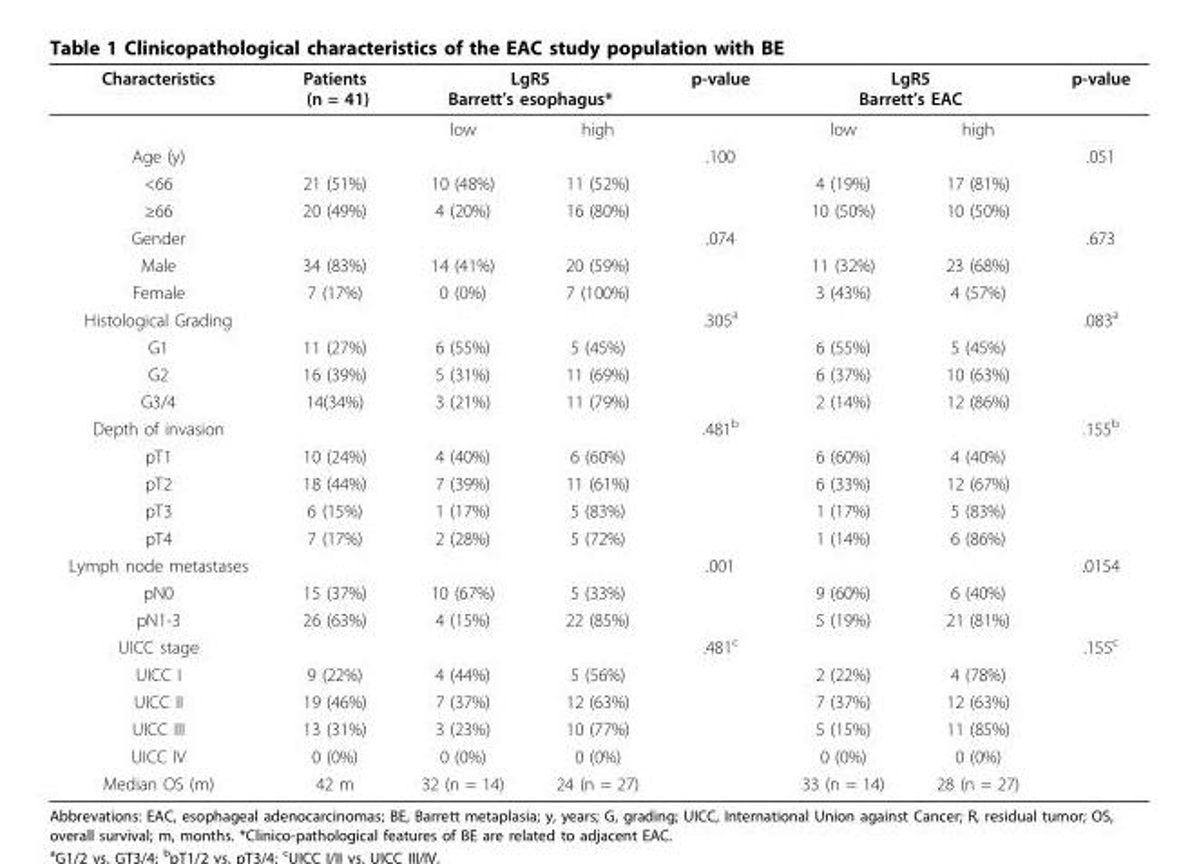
<table><thead><tr><td rowspan="2">Characteristics</td><td rowspan="2">Patients (n = 41)</td><td colspan="2">LgR5 Barrett’s esophagus*</td><td rowspan="2">p-value</td><td colspan="2">LgR5 Barrett’s EAC</td><td rowspan="2">p-value</td></tr><tr><td>low</td><td>high</td><td>low</td><td>high</td></tr></thead><tbody><tr><td>Age (y)</td><td></td><td></td><td></td><td>.100</td><td></td><td></td><td>.051</td></tr><tr><td>&lt;66</td><td>21 (51%)</td><td>10 (48%)</td><td>11 (52%)</td><td></td><td>4 (19%)</td><td>17 (81%)</td><td></td></tr><tr><td>≥66</td><td>20 (49%)</td><td>4 (20%)</td><td>16 (80%)</td><td></td><td>10 (50%)</td><td>10 (50%)</td><td></td></tr><tr><td>Gender</td><td></td><td></td><td></td><td>.074</td><td></td><td></td><td>.673</td></tr><tr><td>Male</td><td>34 (83%)</td><td>14 (41%)</td><td>20 (59%)</td><td></td><td>11 (32%)</td><td>23 (68%)</td><td></td></tr><tr><td>Female</td><td>7 (17%)</td><td>0 (0%)</td><td>7 (100%)</td><td></td><td>3 (43%)</td><td>4 (57%)</td><td></td></tr><tr><td>Histological Grading</td><td></td><td></td><td></td><td>.305<sup>a</sup></td><td></td><td></td><td>.083<sup>a</sup></td></tr><tr><td>G1</td><td>11 (27%)</td><td>6 (55%)</td><td>5 (45%)</td><td></td><td>6 (55%)</td><td>5 (45%)</td><td></td></tr><tr><td>G2</td><td>16 (39%)</td><td>5 (31%)</td><td>11 (69%)</td><td></td><td>6 (37%)</td><td>10 (63%)</td><td></td></tr><tr><td>G3/4</td><td>14(34%)</td><td>3 (21%)</td><td>11 (79%)</td><td></td><td>2 (14%)</td><td>12 (86%)</td><td></td></tr><tr><td>Depth of invasion</td><td></td><td></td><td></td><td>.481<sup>b</sup></td><td></td><td></td><td>.155<sup>b</sup></td></tr><tr><td>pT1</td><td>10 (24%)</td><td>4 (40%)</td><td>6 (60%)</td><td></td><td>6 (60%)</td><td>4 (40%)</td><td></td></tr><tr><td>pT2</td><td>18 (44%)</td><td>7 (39%)</td><td>11 (61%)</td><td></td><td>6 (33%)</td><td>12 (67%)</td><td></td></tr><tr><td>pT3</td><td>6 (15%)</td><td>1 (17%)</td><td>5 (83%)</td><td></td><td>1 (17%)</td><td>5 (83%)</td><td></td></tr><tr><td>pT4</td><td>7 (17%)</td><td>2 (28%)</td><td>5 (72%)</td><td></td><td>1 (14%)</td><td>6 (86%)</td><td></td></tr><tr><td>Lymph node metastases</td><td></td><td></td><td></td><td>.001</td><td></td><td></td><td>.0154</td></tr><tr><td>pN0</td><td>15 (37%)</td><td>10 (67%)</td><td>5 (33%)</td><td></td><td>9 (60%)</td><td>6 (40%)</td><td></td></tr><tr><td>pN1-3</td><td>26 (63%)</td><td>4 (15%)</td><td>22 (85%)</td><td></td><td>5 (19%)</td><td>21 (81%)</td><td></td></tr><tr><td>UICC stage</td><td></td><td></td><td></td><td>.481<sup>c</sup></td><td></td><td></td><td>.155<sup>c</sup></td></tr><tr><td>UICC I</td><td>9 (22%)</td><td>4 (44%)</td><td>5 (56%)</td><td></td><td>2 (22%)</td><td>4 (78%)</td><td></td></tr><tr><td>UICC II</td><td>19 (46%)</td><td>7 (37%)</td><td>12 (63%)</td><td></td><td>7 (37%)</td><td>12 (63%)</td><td></td></tr><tr><td>UICC III</td><td>13 (31%)</td><td>3 (23%)</td><td>10 (77%)</td><td></td><td>5 (15%)</td><td>11 (85%)</td><td></td></tr><tr><td>UICC IV</td><td>0 (0%)</td><td>0 (0%)</td><td>0 (0%)</td><td></td><td>0 (0%)</td><td>0 (0%)</td><td></td></tr><tr><td>Median OS (m)</td><td>42 m</td><td>32 (n = 14)</td><td>24 (n = 27)</td><td></td><td>33 (n = 14)</td><td>28 (n = 27)</td><td></td></tr></tbody></table>